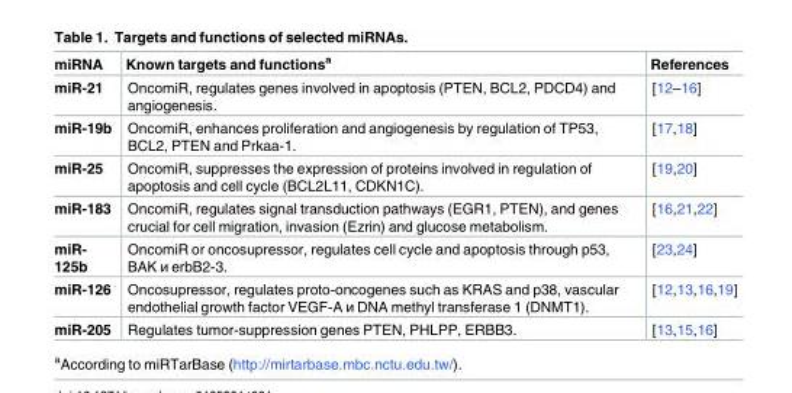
<table><thead><tr><td>miRNA</td><td>Known targets and functions<sup>a</sup></td><td>References</td></tr></thead><tbody><tr><td>miR-21</td><td>OncomiR, regulates genes involved in apoptosis (PTEN, BCL2, PDCD4) and angiogenesis.</td><td>[12–16]</td></tr><tr><td>miR-19b</td><td>OncomiR, enhances proliferation and angiogenesis by regulation of TP53, BCL2, PTEN and Prkaa-1.</td><td>[17,18]</td></tr><tr><td>miR-25</td><td>OncomiR, suppresses the expression of proteins involved in regulation of apoptosis and cell cycle (BCL2L11, CDKN1C).</td><td>[19,20]</td></tr><tr><td>miR-183</td><td>OncomiR, regulates signal transduction pathways (EGR1, PTEN), and genes crucial for cell migration, invasion (Ezrin) and glucose metabolism.</td><td>[16,21,22]</td></tr><tr><td>miR- 125b</td><td>OncomiR or oncosupressor, regulates cell cycle and apoptosis through p53, BAK и erbB2-3.</td><td>[23,24]</td></tr><tr><td>miR-126</td><td>Oncosupressor, regulates proto-oncogenes such as KRAS and p38, vascular endothelial growth factor VEGF-A и DNA methyl transferase 1 (DNMT1).</td><td>[12,13,16,19]</td></tr><tr><td>miR-205</td><td>Regulates tumor-suppression genes PTEN, PHLPP, ERBB3.</td><td>[13,15,16]</td></tr></tbody></table>